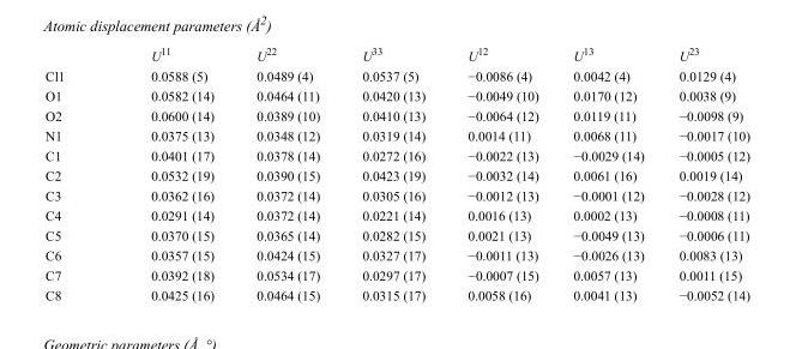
<table><thead><tr><td></td><td>U<sup>11</sup></td><td>U<sup>22</sup></td><td>U<sup>33</sup></td><td>U<sup>12</sup></td><td>U<sup>13</sup></td><td>U<sup>23</sup></td></tr></thead><tbody><tr><td>Cl1</td><td>0.0588 (5)</td><td>0.0489 (4)</td><td>0.0537 (5)</td><td>−0.0086 (4)</td><td>0.0042 (4)</td><td>0.0129 (4)</td></tr><tr><td>O1</td><td>0.0582 (14)</td><td>0.0464 (11)</td><td>0.0420 (13)</td><td>−0.0049 (10)</td><td>0.0170 (12)</td><td>0.0038 (9)</td></tr><tr><td>O2</td><td>0.0600 (14)</td><td>0.0389 (10)</td><td>0.0410 (13)</td><td>−0.0064 (12)</td><td>0.0119 (11)</td><td>−0.0098 (9)</td></tr><tr><td>N1</td><td>0.0375 (13)</td><td>0.0348 (12)</td><td>0.0319 (14)</td><td>0.0014 (11)</td><td>0.0068 (11)</td><td>−0.0017 (10)</td></tr><tr><td>C1</td><td>0.0401 (17)</td><td>0.0378 (14)</td><td>0.0272 (16)</td><td>−0.0022 (13)</td><td>−0.0029 (14)</td><td>−0.0005 (12)</td></tr><tr><td>C2</td><td>0.0532 (19)</td><td>0.0390 (15)</td><td>0.0423 (19)</td><td>−0.0032 (14)</td><td>0.0061 (16)</td><td>0.0019 (14)</td></tr><tr><td>C3</td><td>0.0362 (16)</td><td>0.0372 (14)</td><td>0.0305 (16)</td><td>−0.0012 (13)</td><td>−0.0001 (12)</td><td>−0.0028 (12)</td></tr><tr><td>C4</td><td>0.0291 (14)</td><td>0.0372 (14)</td><td>0.0221 (14)</td><td>0.0016 (13)</td><td>0.0002 (13)</td><td>−0.0008 (11)</td></tr><tr><td>C5</td><td>0.0370 (15)</td><td>0.0365 (14)</td><td>0.0282 (15)</td><td>0.0021 (13)</td><td>−0.0049 (13)</td><td>−0.0006 (11)</td></tr><tr><td>C6</td><td>0.0357 (15)</td><td>0.0424 (15)</td><td>0.0327 (17)</td><td>−0.0011 (13)</td><td>−0.0026 (13)</td><td>0.0083 (13)</td></tr><tr><td>C7</td><td>0.0392 (18)</td><td>0.0534 (17)</td><td>0.0297 (17)</td><td>−0.0007 (15)</td><td>0.0057 (13)</td><td>0.0011 (15)</td></tr><tr><td>C8</td><td>0.0425 (16)</td><td>0.0464 (15)</td><td>0.0315 (17)</td><td>0.0058 (16)</td><td>0.0041 (13)</td><td>−0.0052 (14)</td></tr></tbody></table>